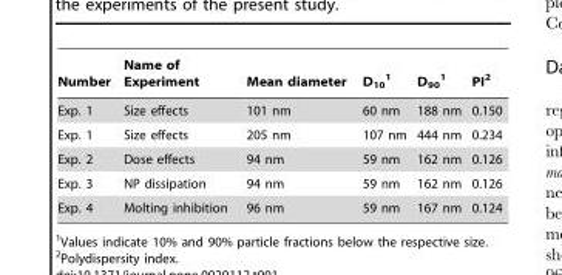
<table><thead><tr><td>Number</td><td>Name of Experiment</td><td>Mean diameter</td><td>D<sub>10</sub> 1</td><td>D<sub>90</sub> 1</td><td>PI<sup>2</sup></td></tr></thead><tbody><tr><td>Exp. 1</td><td>Size effects</td><td>101 nm</td><td>60 nm</td><td>188 nm</td><td>0.150</td></tr><tr><td>Exp. 1</td><td>Size effects</td><td>205 nm</td><td>107 nm</td><td>444 nm</td><td>0.234</td></tr><tr><td>Exp. 2</td><td>Dose effects</td><td>94 nm</td><td>59 nm</td><td>162 nm</td><td>0.126</td></tr><tr><td>Exp. 3</td><td>NP dissipation</td><td>94 nm</td><td>59 nm</td><td>162 nm</td><td>0.126</td></tr><tr><td>Exp. 4</td><td>Molting inhibition</td><td>96 nm</td><td>59 nm</td><td>167 nm</td><td>0.124</td></tr></tbody></table>